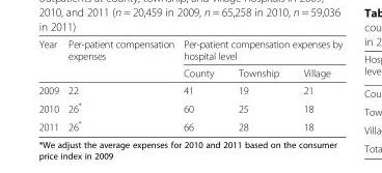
<table><thead><tr><td rowspan="2">Year</td><td rowspan="2">Per-patient compensation expenses</td><td colspan="3">Per-patient compensation expenses by hospital level</td></tr><tr><td>County</td><td>Township</td><td>Village</td></tr></thead><tbody><tr><td>2009</td><td>22</td><td>41</td><td>19</td><td>21</td></tr><tr><td>2010</td><td>26*</td><td>60</td><td>25</td><td>18</td></tr><tr><td>2011</td><td>26*</td><td>66</td><td>28</td><td>18</td></tr></tbody></table>